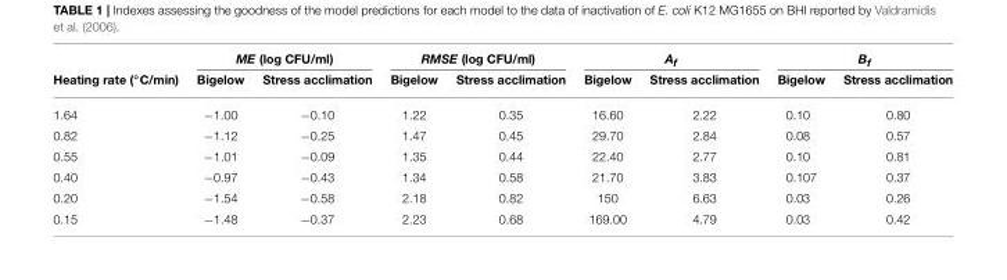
<table><thead><tr><td rowspan="2">Heating rate (◦C/min)</td><td colspan="2">ME (log CFU/ml)</td><td colspan="2">RMSE (log CFU/ml)</td><td colspan="2">Af</td><td colspan="2">Bf</td></tr><tr><td>Bigelow</td><td>Stress acclimation</td><td>Bigelow</td><td>Stress acclimation</td><td>Bigelow</td><td>Stress acclimation</td><td>Bigelow</td><td>Stress acclimation</td></tr></thead><tbody><tr><td>1.64</td><td>−1.00</td><td>−0.10</td><td>1.22</td><td>0.35</td><td>16.60</td><td>2.22</td><td>0.10</td><td>0.80</td></tr><tr><td>0.82</td><td>−1.12</td><td>−0.25</td><td>1.47</td><td>0.45</td><td>29.70</td><td>2.84</td><td>0.08</td><td>0.57</td></tr><tr><td>0.55</td><td>−1.01</td><td>−0.09</td><td>1.35</td><td>0.44</td><td>22.40</td><td>2.77</td><td>0.10</td><td>0.81</td></tr><tr><td>0.40</td><td>−0.97</td><td>−0.43</td><td>1.34</td><td>0.58</td><td>21.70</td><td>3.83</td><td>0.107</td><td>0.37</td></tr><tr><td>0.20</td><td>−1.54</td><td>−0.58</td><td>2.18</td><td>0.82</td><td>150</td><td>6.63</td><td>0.03</td><td>0.26</td></tr><tr><td>0.15</td><td>−1.48</td><td>−0.37</td><td>2.23</td><td>0.68</td><td>169.00</td><td>4.79</td><td>0.03</td><td>0.42</td></tr></tbody></table>